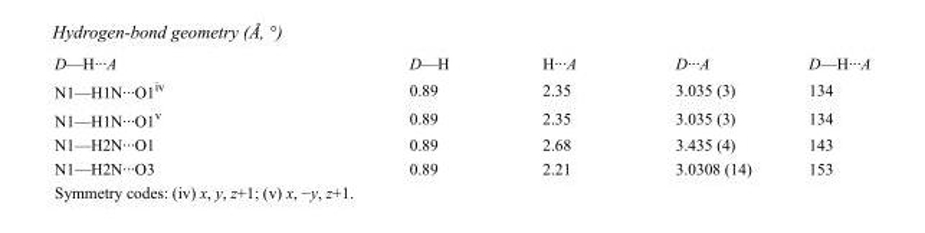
<table><tbody><tr><td>D—H···A</td><td>D—H</td><td>H···A</td><td>D···A</td><td>D—H···A</td></tr><tr><td>N1—H1N···O1<sup>iv</sup></td><td>0.89</td><td>2.35</td><td>3.035 (3)</td><td>134</td></tr><tr><td>N1—H1N···O1<sup>v</sup></td><td>0.89</td><td>2.35</td><td>3.035 (3)</td><td>134</td></tr><tr><td>N1—H2N···O1</td><td>0.89</td><td>2.68</td><td>3.435 (4)</td><td>143</td></tr><tr><td>N1—H2N···O3</td><td>0.89</td><td>2.21</td><td>3.0308 (14)</td><td>153</td></tr></tbody></table>